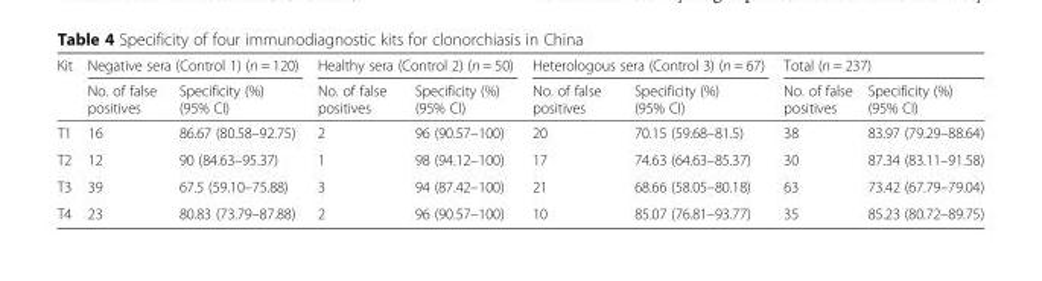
<table><thead><tr><td rowspan="2">Kit</td><td colspan="2">Negative sera (Control 1) (n = 120)</td><td colspan="2">Healthy sera (Control 2) (n = 50)</td><td colspan="2">Heterologous sera (Control 3) (n = 67)</td><td colspan="2">Total (n = 237)</td></tr><tr><td>No. of false positives</td><td>Specificity (%) (95% CI)</td><td>No. of false positives</td><td>Specificity (%) (95% CI)</td><td>No. of false positives</td><td>Specificity (%) (95% CI)</td><td>No. of false positives</td><td>Specificity (%) (95% CI)</td></tr></thead><tbody><tr><td>T1</td><td>16</td><td>86.67 (80.58–92.75)</td><td>2</td><td>96 (90.57–100)</td><td>20</td><td>70.15 (59.68–81.5)</td><td>38</td><td>83.97 (79.29–88.64)</td></tr><tr><td>T2</td><td>12</td><td>90 (84.63–95.37)</td><td>1</td><td>98 (94.12–100)</td><td>17</td><td>74.63 (64.63–85.37)</td><td>30</td><td>87.34 (83.11–91.58)</td></tr><tr><td>T3</td><td>39</td><td>67.5 (59.10–75.88)</td><td>3</td><td>94 (87.42–100)</td><td>21</td><td>68.66 (58.05–80.18)</td><td>63</td><td>73.42 (67.79–79.04)</td></tr><tr><td>T4</td><td>23</td><td>80.83 (73.79–87.88)</td><td>2</td><td>96 (90.57–100)</td><td>10</td><td>85.07 (76.81–93.77)</td><td>35</td><td>85.23 (80.72–89.75)</td></tr></tbody></table>